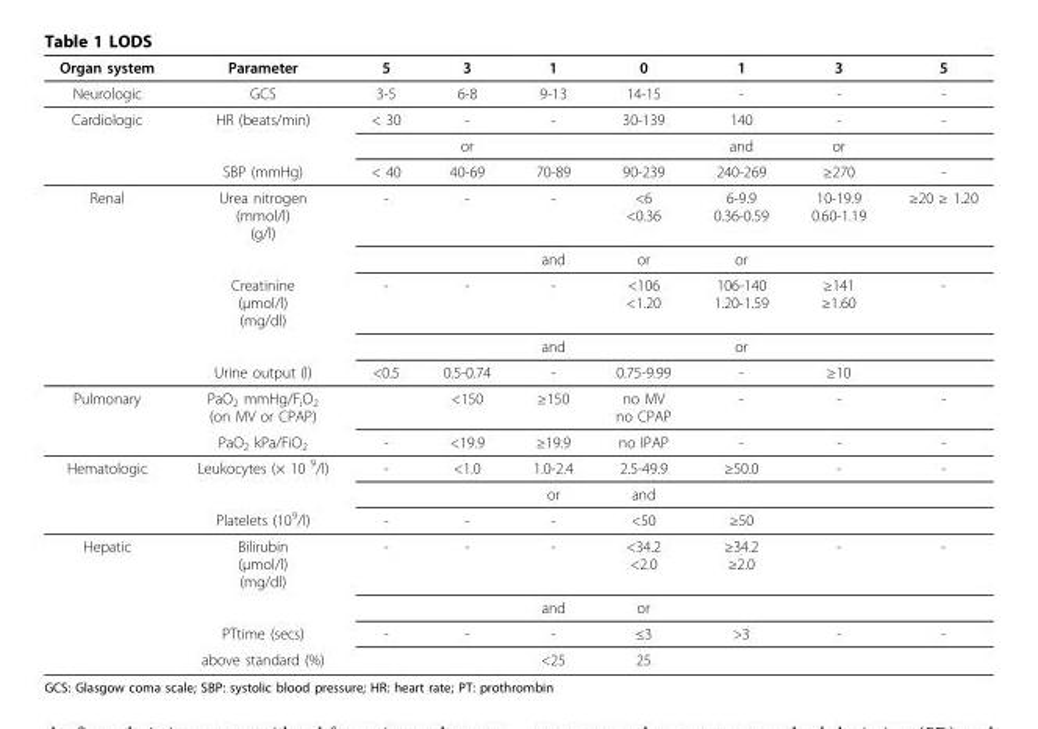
<table><thead><tr><td>Organ system</td><td>Parameter</td><td>5</td><td>3</td><td>1</td><td>0</td><td>1</td><td>3</td><td>5</td></tr></thead><tbody><tr><td>Neurologic</td><td>GCS</td><td>3-5</td><td>6-8</td><td>9-13</td><td>14-15</td><td>-</td><td>-</td><td>-</td></tr><tr><td rowspan="3">Cardiologic</td><td>HR (beats/min)</td><td>&lt; 30</td><td>-</td><td>-</td><td>30-139</td><td>140</td><td>-</td><td>-</td></tr><tr><td></td><td></td><td>or</td><td></td><td></td><td>and</td><td>or</td><td></td></tr><tr><td>SBP (mmHg)</td><td>&lt; 40</td><td>40-69</td><td>70-89</td><td>90-239</td><td>240-269</td><td>≥270</td><td>-</td></tr><tr><td rowspan="5">Renal</td><td>Urea nitrogen (mmol/l) (g/l)</td><td>-</td><td>-</td><td>-</td><td>&lt;6 &lt;0.36</td><td>6-9.9 0.36-0.59</td><td>10-19.9 0.60-1.19</td><td>≥20 ≥ 1.20</td></tr><tr><td></td><td></td><td></td><td>and</td><td>or</td><td>or</td><td></td><td></td></tr><tr><td>Creatinine (μmol/l) (mg/dl)</td><td>-</td><td>-</td><td>-</td><td>&lt;106 &lt;1.20</td><td>106-140 1.20-1.59</td><td>≥141 ≥1.60</td><td>-</td></tr><tr><td></td><td></td><td></td><td>and</td><td></td><td>or</td><td></td><td></td></tr><tr><td>Urine output (l)</td><td>&lt;0.5</td><td>0.5-0.74</td><td>-</td><td>0.75-9.99</td><td>-</td><td>≥10</td><td></td></tr><tr><td rowspan="2">Pulmonary</td><td>PaO<sub>2</sub> mmHg/F<sub>i</sub>O<sub>2</sub> (on MV or CPAP)</td><td></td><td>&lt;150</td><td>≥150</td><td>no MV no CPAP</td><td>-</td><td>-</td><td>-</td></tr><tr><td>PaO<sub>2</sub> kPa/FiO<sub>2</sub></td><td>-</td><td>&lt;19.9</td><td>≥19.9</td><td>no IPAP</td><td>-</td><td>-</td><td>-</td></tr><tr><td rowspan="3">Hematologic</td><td>Leukocytes (× 10 <sup>9</sup>/l)</td><td>-</td><td>&lt;1.0</td><td>1.0-2.4</td><td>2.5-49.9</td><td>≥50.0</td><td>-</td><td>-</td></tr><tr><td></td><td></td><td></td><td>or</td><td>and</td><td></td><td></td><td></td></tr><tr><td>Platelets (10<sup>9</sup>/l)</td><td>-</td><td>-</td><td>-</td><td>&lt;50</td><td>≥50</td><td></td><td></td></tr><tr><td rowspan="4">Hepatic</td><td>Bilirubin (μmol/l) (mg/dl)</td><td>-</td><td>-</td><td>-</td><td>&lt;34.2 &lt;2.0</td><td>≥34.2 ≥2.0</td><td>-</td><td>-</td></tr><tr><td></td><td></td><td></td><td>and</td><td>or</td><td></td><td></td><td></td></tr><tr><td>PTtime (secs)</td><td>-</td><td>-</td><td>-</td><td>≤3</td><td>&gt;3</td><td>-</td><td>-</td></tr><tr><td>above standard (%)</td><td></td><td></td><td>&lt;25</td><td>25</td><td></td><td></td><td></td></tr></tbody></table>